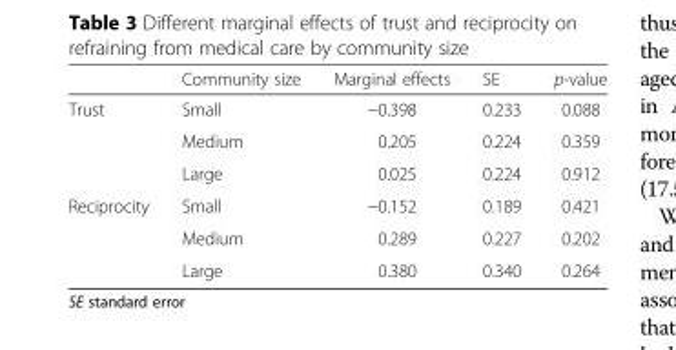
<table><thead><tr><td></td><td>Community size</td><td>Marginal effects</td><td>SE</td><td>p-value</td></tr></thead><tbody><tr><td rowspan="3">Trust</td><td>Small</td><td>−0.398</td><td>0.233</td><td>0.088</td></tr><tr><td>Medium</td><td>0.205</td><td>0.224</td><td>0.359</td></tr><tr><td>Large</td><td>0.025</td><td>0.224</td><td>0.912</td></tr><tr><td rowspan="3">Reciprocity</td><td>Small</td><td>−0.152</td><td>0.189</td><td>0.421</td></tr><tr><td>Medium</td><td>0.289</td><td>0.227</td><td>0.202</td></tr><tr><td>Large</td><td>0.380</td><td>0.340</td><td>0.264</td></tr></tbody></table>